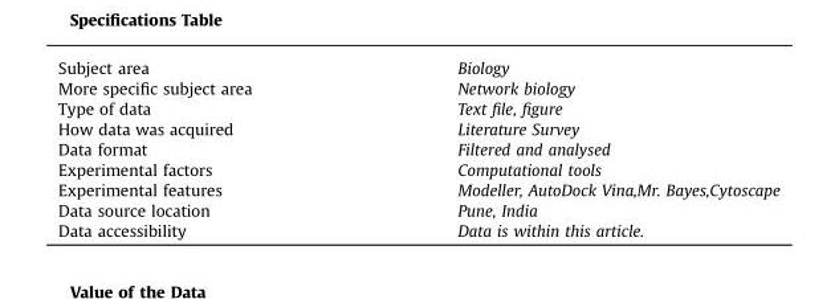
<table><tbody><tr><td>Subject area</td><td>Biology</td></tr><tr><td>More specific subject area</td><td>Network biology</td></tr><tr><td>Type of data</td><td>Text file, figure</td></tr><tr><td>How data was acquired</td><td>Literature Survey</td></tr><tr><td>Data format</td><td>Filtered and analysed</td></tr><tr><td>Experimental factors</td><td>Computational tools</td></tr><tr><td>Experimental features</td><td>Modeller, AutoDock Vina,Mr. Bayes,Cytoscape</td></tr><tr><td>Data source location</td><td>Pune, India</td></tr><tr><td>Data accessibility</td><td>Data is within this article.</td></tr></tbody></table>